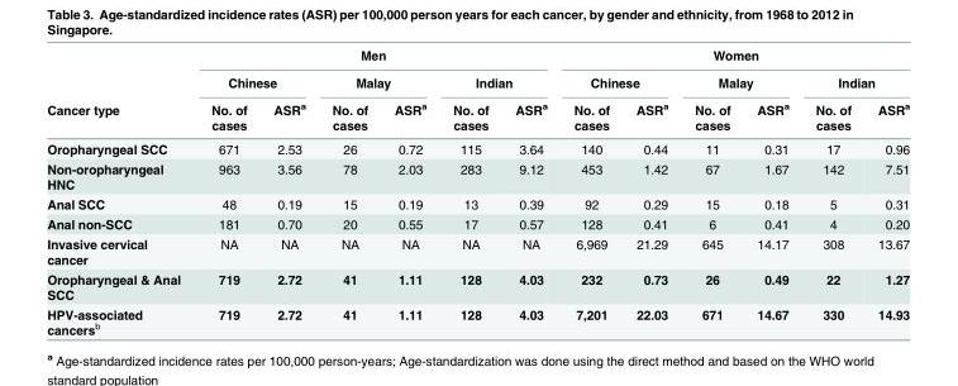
<table><thead><tr><td rowspan="3">Cancer type</td><td colspan="6">Men</td><td colspan="6">Women</td></tr><tr><td colspan="2">Chinese</td><td colspan="2">Malay</td><td colspan="2">Indian</td><td colspan="2">Chinese</td><td colspan="2">Malay</td><td colspan="2">Indian</td></tr><tr><td>No. of cases</td><td>ASR<sup>a</sup></td><td>No. of cases</td><td>ASR<sup>a</sup></td><td>No. of cases</td><td>ASR<sup>a</sup></td><td>No. of cases</td><td>ASR<sup>a</sup></td><td>No. of cases</td><td>ASR<sup>a</sup></td><td>No. of cases</td><td>ASR<sup>a</sup></td></tr></thead><tbody><tr><td>Oropharyngeal SCC</td><td>671</td><td>2.53</td><td>26</td><td>0.72</td><td>115</td><td>3.64</td><td>140</td><td>0.44</td><td>11</td><td>0.31</td><td>17</td><td>0.96</td></tr><tr><td>Non-oropharyngeal HNC</td><td>963</td><td>3.56</td><td>78</td><td>2.03</td><td>283</td><td>9.12</td><td>453</td><td>1.42</td><td>67</td><td>1.67</td><td>142</td><td>7.51</td></tr><tr><td>Anal SCC</td><td>48</td><td>0.19</td><td>15</td><td>0.19</td><td>13</td><td>0.39</td><td>92</td><td>0.29</td><td>15</td><td>0.18</td><td>5</td><td>0.31</td></tr><tr><td>Anal non-SCC</td><td>181</td><td>0.70</td><td>20</td><td>0.55</td><td>17</td><td>0.57</td><td>128</td><td>0.41</td><td>6</td><td>0.41</td><td>4</td><td>0.20</td></tr><tr><td>Invasive cervical cancer</td><td>NA</td><td>NA</td><td>NA</td><td>NA</td><td>NA</td><td>NA</td><td>6,969</td><td>21.29</td><td>645</td><td>14.17</td><td>308</td><td>13.67</td></tr><tr><td>Oropharyngeal &amp; Anal SCC</td><td>719</td><td>2.72</td><td>41</td><td>1.11</td><td>128</td><td>4.03</td><td>232</td><td>0.73</td><td>26</td><td>0.49</td><td>22</td><td>1.27</td></tr><tr><td>HPV-associated cancers<sup>b</sup></td><td>719</td><td>2.72</td><td>41</td><td>1.11</td><td>128</td><td>4.03</td><td>7,201</td><td>22.03</td><td>671</td><td>14.67</td><td>330</td><td>14.93</td></tr></tbody></table>